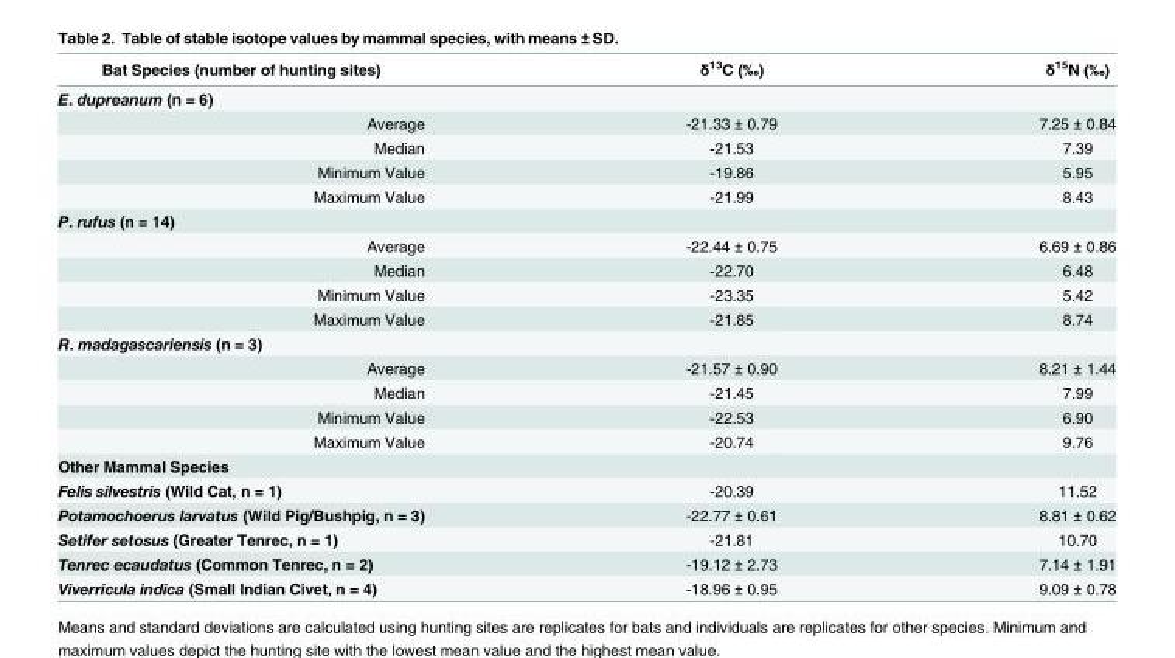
<table><thead><tr><td>Bat Species (number of hunting sites)</td><td>δ<sup>13</sup>C (‰)</td><td>δ<sup>15</sup>N (‰)</td></tr></thead><tbody><tr><td colspan="3">E. dupreanum (n = 6)</td></tr><tr><td>Average</td><td>-21.33 ± 0.79</td><td>7.25 ± 0.84</td></tr><tr><td>Median</td><td>-21.53</td><td>7.39</td></tr><tr><td>Minimum Value</td><td>-19.86</td><td>5.95</td></tr><tr><td>Maximum Value</td><td>-21.99</td><td>8.43</td></tr><tr><td colspan="3">P. rufus (n = 14)</td></tr><tr><td>Average</td><td>-22.44 ± 0.75</td><td>6.69 ± 0.86</td></tr><tr><td>Median</td><td>-22.70</td><td>6.48</td></tr><tr><td>Minimum Value</td><td>-23.35</td><td>5.42</td></tr><tr><td>Maximum Value</td><td>-21.85</td><td>8.74</td></tr><tr><td colspan="3">R. madagascariensis (n = 3)</td></tr><tr><td>Average</td><td>-21.57 ± 0.90</td><td>8.21 ± 1.44</td></tr><tr><td>Median</td><td>-21.45</td><td>7.99</td></tr><tr><td>Minimum Value</td><td>-22.53</td><td>6.90</td></tr><tr><td>Maximum Value</td><td>-20.74</td><td>9.76</td></tr><tr><td colspan="3">Other Mammal Species</td></tr><tr><td>Felis silvestris (Wild Cat, n = 1)</td><td>-20.39</td><td>11.52</td></tr><tr><td>Potamochoerus larvatus (Wild Pig/Bushpig, n = 3)</td><td>-22.77 ± 0.61</td><td>8.81 ± 0.62</td></tr><tr><td>Setifer setosus (Greater Tenrec, n = 1)</td><td>-21.81</td><td>10.70</td></tr><tr><td>Tenrec ecaudatus (Common Tenrec, n = 2)</td><td>-19.12 ± 2.73</td><td>7.14 ± 1.91</td></tr><tr><td>Viverricula indica (Small Indian Civet, n = 4)</td><td>-18.96 ± 0.95</td><td>9.09 ± 0.78</td></tr></tbody></table>